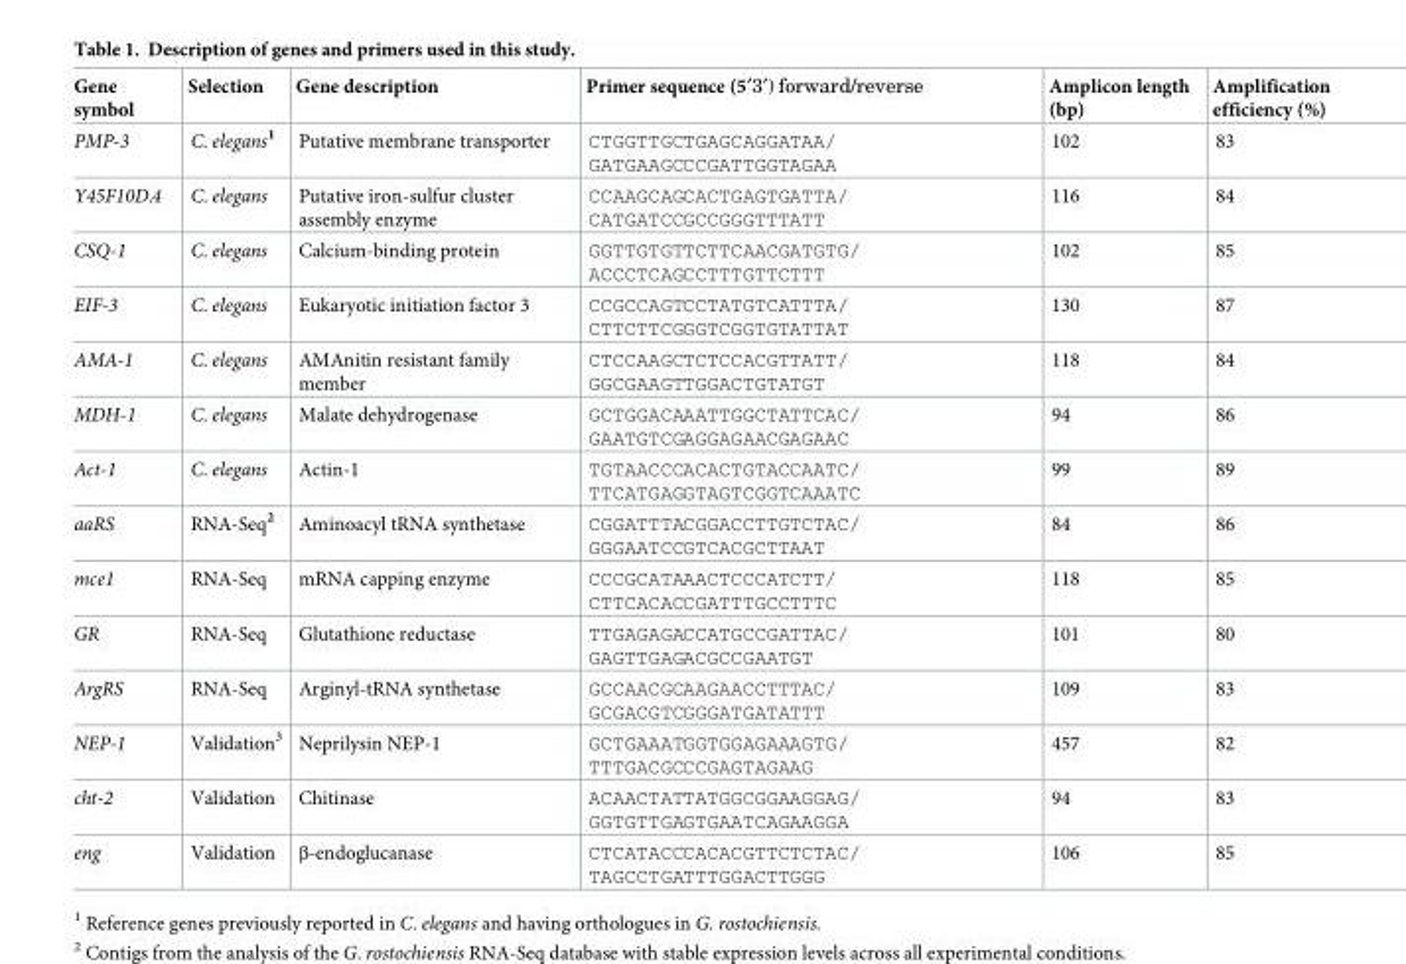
<table><thead><tr><td>Gene symbol</td><td>Selection</td><td>Gene description</td><td>Primer sequence (5ʹ3ʹ) forward/reverse</td><td>Amplicon length (bp)</td><td>Amplification efficiency (%)</td></tr></thead><tbody><tr><td>PMP-3</td><td>C. elegans<sup>1</sup></td><td>Putative membrane transporter</td><td>CTGGTTGCTGAGCAGGATAA/ GATGAAGCCCGATTGGTAGAA</td><td>102</td><td>83</td></tr><tr><td>Y45F10D.4</td><td>C. elegans</td><td>Putative iron-sulfur cluster assembly enzyme</td><td>CCAAGCAGCACTGAGTGATTA/ CATGATCCGCCGGGTTTATT</td><td>116</td><td>84</td></tr><tr><td>CSQ-1</td><td>C. elegans</td><td>Calcium-binding protein</td><td>GGTTGTGTTCTTCAACGATGTG/ ACCCTCAGCCTTTGTTCTTT</td><td>102</td><td>85</td></tr><tr><td>EIF-3</td><td>C. elegans</td><td>Eukaryotic initiation factor 3</td><td>CCGCCAGTCCTATGTCATTTA/ CTTCTTCGGGTCGGTGTATTAT</td><td>130</td><td>87</td></tr><tr><td>AMA-1</td><td>C. elegans</td><td>AMAnitin resistant family member</td><td>CTCCAAGCTCTCCACGTTATT/ GGCGAAGTTGGACTGTATGT</td><td>118</td><td>84</td></tr><tr><td>MDH-1</td><td>C. elegans</td><td>Malate dehydrogenase</td><td>GCTGGACAAATTGGCTATTCAC/ GAATGTCGAGGAGAACGAGAAC</td><td>94</td><td>86</td></tr><tr><td>Act-1</td><td>C. elegans</td><td>Actin-1</td><td>TGTAACCCACACTGTACCAATC/ TTCATGAGGTAGTCGGTCAAATC</td><td>99</td><td>89</td></tr><tr><td>aaRS</td><td>RNA-Seq<sup>2</sup></td><td>Aminoacyl tRNA synthetase</td><td>CGGATTTACGGACCTTGTCTAC/ GGGAATCCGTCACGCTTAAT</td><td>84</td><td>86</td></tr><tr><td>mce1</td><td>RNA-Seq</td><td>mRNA capping enzyme</td><td>CCCGCATAAACTCCCATCTT/ CTTCACACCGATTTGCCTTTC</td><td>118</td><td>85</td></tr><tr><td>GR</td><td>RNA-Seq</td><td>Glutathione reductase</td><td>TTGAGAGACCATGCCGATTAC/ GAGTTGAGACGCCGAATGT</td><td>101</td><td>80</td></tr><tr><td>ArgRS</td><td>RNA-Seq</td><td>Arginyl-tRNA synthetase</td><td>GCCAACGCAAGAACCTTTAC/ GCGACGTCGGGATGATATTT</td><td>109</td><td>83</td></tr><tr><td>NEP-1</td><td>Validation<sup>3</sup></td><td>Neprilysin NEP-1</td><td>GCTGAAATGGTGGAGAAAGTG/ TTTGACGCCCGAGTAGAAG</td><td>457</td><td>82</td></tr><tr><td>cht-2</td><td>Validation</td><td>Chitinase</td><td>ACAACTATTATGGCGGAAGGAG/ GGTGTTGAGTGAATCAGAAGGA</td><td>94</td><td>83</td></tr><tr><td>eng</td><td>Validation</td><td>β-endoglucanase</td><td>CTCATACCCACACGTTCTCTAC/ TAGCCTGATTTGGACTTGGG</td><td>106</td><td>85</td></tr></tbody></table>